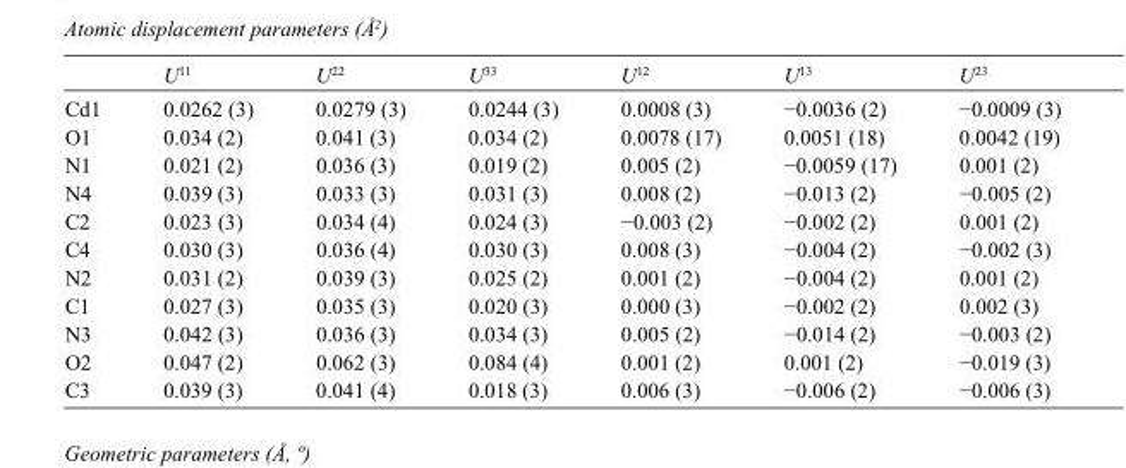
<table><thead><tr><td></td><td>U<sup>11</sup></td><td>U<sup>22</sup></td><td>U<sup>33</sup></td><td>U<sup>12</sup></td><td>U<sup>13</sup></td><td>U<sup>23</sup></td></tr></thead><tbody><tr><td>Cd1</td><td>0.0262 (3)</td><td>0.0279 (3)</td><td>0.0244 (3)</td><td>0.0008 (3)</td><td>−0.0036 (2)</td><td>−0.0009 (3)</td></tr><tr><td>O1</td><td>0.034 (2)</td><td>0.041 (3)</td><td>0.034 (2)</td><td>0.0078 (17)</td><td>0.0051 (18)</td><td>0.0042 (19)</td></tr><tr><td>N1</td><td>0.021 (2)</td><td>0.036 (3)</td><td>0.019 (2)</td><td>0.005 (2)</td><td>−0.0059 (17)</td><td>0.001 (2)</td></tr><tr><td>N4</td><td>0.039 (3)</td><td>0.033 (3)</td><td>0.031 (3)</td><td>0.008 (2)</td><td>−0.013 (2)</td><td>−0.005 (2)</td></tr><tr><td>C2</td><td>0.023 (3)</td><td>0.034 (4)</td><td>0.024 (3)</td><td>−0.003 (2)</td><td>−0.002 (2)</td><td>0.001 (2)</td></tr><tr><td>C4</td><td>0.030 (3)</td><td>0.036 (4)</td><td>0.030 (3)</td><td>0.008 (3)</td><td>−0.004 (2)</td><td>−0.002 (3)</td></tr><tr><td>N2</td><td>0.031 (2)</td><td>0.039 (3)</td><td>0.025 (2)</td><td>0.001 (2)</td><td>−0.004 (2)</td><td>0.001 (2)</td></tr><tr><td>C1</td><td>0.027 (3)</td><td>0.035 (3)</td><td>0.020 (3)</td><td>0.000 (3)</td><td>−0.002 (2)</td><td>0.002 (3)</td></tr><tr><td>N3</td><td>0.042 (3)</td><td>0.036 (3)</td><td>0.034 (3)</td><td>0.005 (2)</td><td>−0.014 (2)</td><td>−0.003 (2)</td></tr><tr><td>O2</td><td>0.047 (2)</td><td>0.062 (3)</td><td>0.084 (4)</td><td>0.001 (2)</td><td>0.001 (2)</td><td>−0.019 (3)</td></tr><tr><td>C3</td><td>0.039 (3)</td><td>0.041 (4)</td><td>0.018 (3)</td><td>0.006 (3)</td><td>−0.006 (2)</td><td>−0.006 (3)</td></tr></tbody></table>